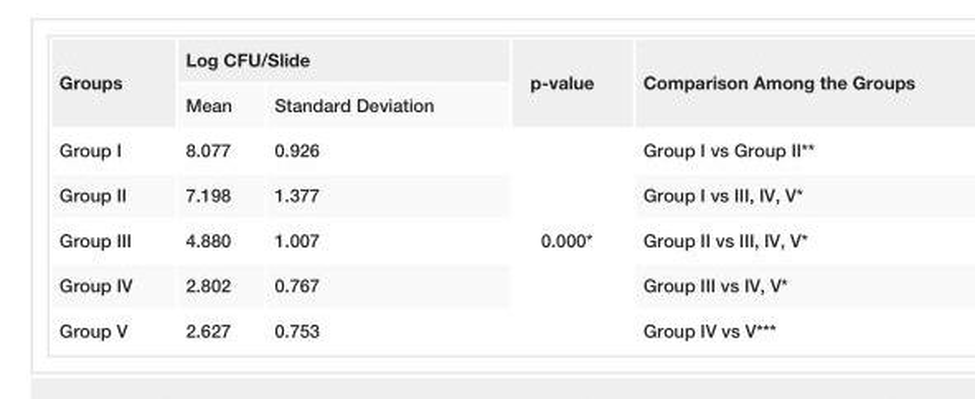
<table><tbody><tr><td rowspan="2">Groups</td><td colspan="2">Log CFU/Slide</td><td rowspan="2">p-value</td><td rowspan="2">Comparison Among the Groups</td></tr><tr><td>Mean</td><td>Standard Deviation</td></tr><tr><td>Group I</td><td>8.077</td><td>0.926</td><td rowspan="5">0.000*</td><td>Group I vs Group II**</td></tr><tr><td>Group II</td><td>7.198</td><td>1.377</td><td>Group I vs III, IV, V*</td></tr><tr><td>Group III</td><td>4.880</td><td>1.007</td><td>Group II vs III, IV, V*</td></tr><tr><td>Group IV</td><td>2.802</td><td>0.767</td><td>Group III vs IV, V*</td></tr><tr><td>Group V</td><td>2.627</td><td>0.753</td><td>Group IV vs V***</td></tr></tbody></table>